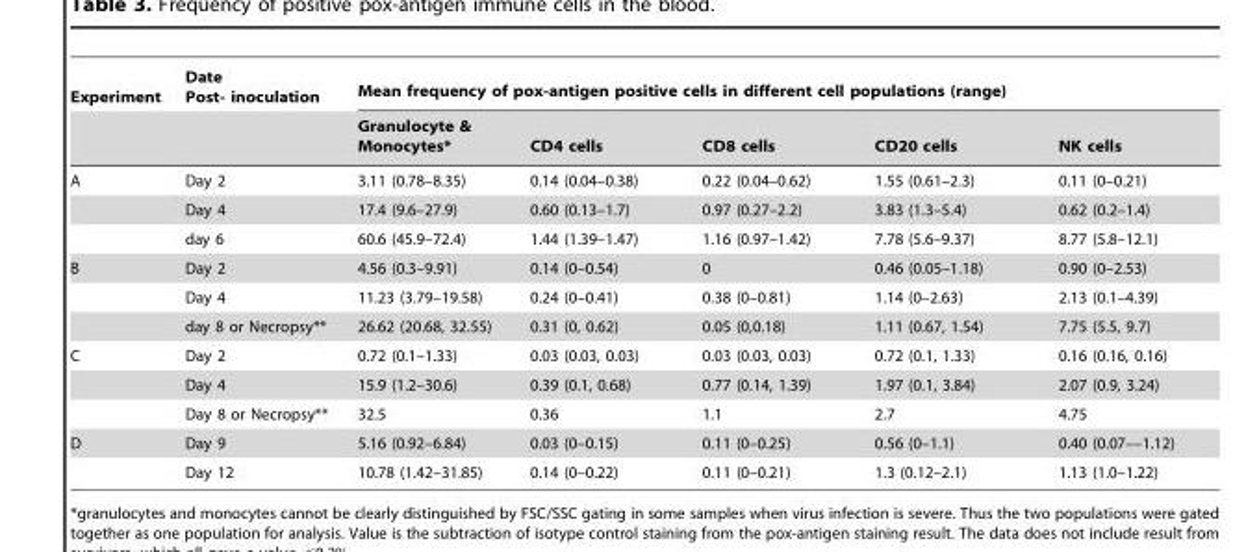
<table><thead><tr><td rowspan="2">Experiment</td><td rowspan="2">Date Post- inoculation</td><td colspan="5">Mean frequency of pox-antigen positive cells in different cell populations (range)</td></tr><tr><td>Granulocyte &amp; Monocytes*</td><td>CD4 cells</td><td>CD8 cells</td><td>CD20 cells</td><td>NK cells</td></tr></thead><tbody><tr><td rowspan="3">A</td><td>Day 2</td><td>3.11 (0.78–8.35)</td><td>0.14 (0.04–0.38)</td><td>0.22 (0.04–0.62)</td><td>1.55 (0.61–2.3)</td><td>0.11 (0–0.21)</td></tr><tr><td>Day 4</td><td>17.4 (9.6–27.9)</td><td>0.60 (0.13–1.7)</td><td>0.97 (0.27–2.2)</td><td>3.83 (1.3–5.4)</td><td>0.62 (0.2–1.4)</td></tr><tr><td>day 6</td><td>60.6 (45.9–72.4)</td><td>1.44 (1.39–1.47)</td><td>1.16 (0.97–1.42)</td><td>7.78 (5.6–9.37)</td><td>8.77 (5.8–12.1)</td></tr><tr><td rowspan="3">B</td><td>Day 2</td><td>4.56 (0.3–9.91)</td><td>0.14 (0–0.54)</td><td>0</td><td>0.46 (0.05–1.18)</td><td>0.90 (0–2.53)</td></tr><tr><td>Day 4</td><td>11.23 (3.79–19.58)</td><td>0.24 (0–0.41)</td><td>0.38 (0–0.81)</td><td>1.14 (0–2.63)</td><td>2.13 (0.1–4.39)</td></tr><tr><td>day 8 or Necropsy**</td><td>26.62 (20.68, 32.55)</td><td>0.31 (0, 0.62)</td><td>0.05 (0,0.18)</td><td>1.11 (0.67, 1.54)</td><td>7.75 (5.5, 9.7)</td></tr><tr><td rowspan="3">C</td><td>Day 2</td><td>0.72 (0.1–1.33)</td><td>0.03 (0.03, 0.03)</td><td>0.03 (0.03, 0.03)</td><td>0.72 (0.1, 1.33)</td><td>0.16 (0.16, 0.16)</td></tr><tr><td>Day 4</td><td>15.9 (1.2–30.6)</td><td>0.39 (0.1, 0.68)</td><td>0.77 (0.14, 1.39)</td><td>1.97 (0.1, 3.84)</td><td>2.07 (0.9, 3.24)</td></tr><tr><td>Day 8 or Necropsy**</td><td>32.5</td><td>0.36</td><td>1.1</td><td>2.7</td><td>4.75</td></tr><tr><td rowspan="2">D</td><td>Day 9</td><td>5.16 (0.92–6.84)</td><td>0.03 (0–0.15)</td><td>0.11 (0–0.25)</td><td>0.56 (0–1.1)</td><td>0.40 (0.07––1.12)</td></tr><tr><td>Day 12</td><td>10.78 (1.42–31.85)</td><td>0.14 (0–0.22)</td><td>0.11 (0–0.21)</td><td>1.3 (0.12–2.1)</td><td>1.13 (1.0–1.22)</td></tr></tbody></table>